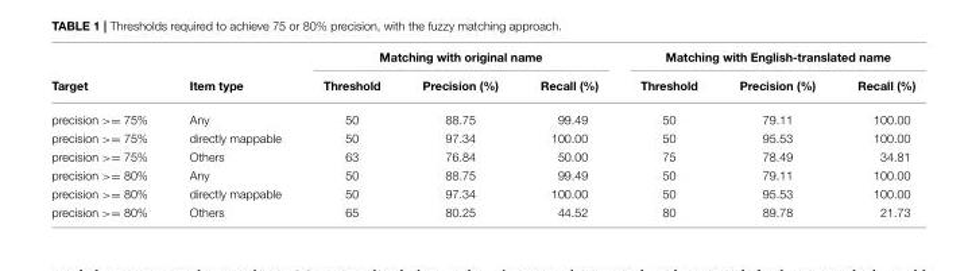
<table><thead><tr><td rowspan="2">Target</td><td rowspan="2">Item type</td><td colspan="3">Matching with original name</td><td colspan="3">Matching with English-translated name</td></tr><tr><td>Threshold</td><td>Precision (%)</td><td>Recall (%)</td><td>Threshold</td><td>Precision (%)</td><td>Recall (%)</td></tr></thead><tbody><tr><td>precision &gt;= 75%</td><td>Any</td><td>50</td><td>88.75</td><td>99.49</td><td>50</td><td>79.11</td><td>100.00</td></tr><tr><td>precision &gt;= 75%</td><td>directly mappable</td><td>50</td><td>97.34</td><td>100.00</td><td>50</td><td>95.53</td><td>100.00</td></tr><tr><td>precision &gt;= 75%</td><td>Others</td><td>63</td><td>76.84</td><td>50.00</td><td>75</td><td>78.49</td><td>34.81</td></tr><tr><td>precision &gt;= 80%</td><td>Any</td><td>50</td><td>88.75</td><td>99.49</td><td>50</td><td>79.11</td><td>100.00</td></tr><tr><td>precision &gt;= 80%</td><td>directly mappable</td><td>50</td><td>97.34</td><td>100.00</td><td>50</td><td>95.53</td><td>100.00</td></tr><tr><td>precision &gt;= 80%</td><td>Others</td><td>65</td><td>80.25</td><td>44.52</td><td>80</td><td>89.78</td><td>21.73</td></tr></tbody></table>